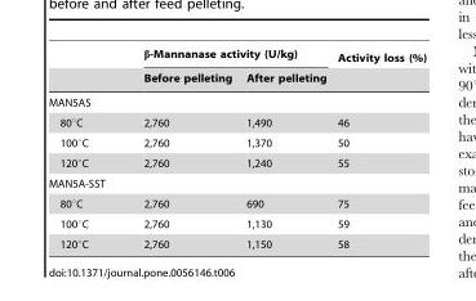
<table><thead><tr><td rowspan="2"></td><td colspan="2">β-Mannanase activity (U/kg)</td><td rowspan="2">Activity loss (%)</td></tr><tr><td>Before pelleting</td><td>After pelleting</td></tr></thead><tbody><tr><td colspan="4">MAN5AS</td></tr><tr><td>80°C</td><td>2,760</td><td>1,490</td><td>46</td></tr><tr><td>100°C</td><td>2,760</td><td>1,370</td><td>50</td></tr><tr><td>120°C</td><td>2,760</td><td>1,240</td><td>55</td></tr><tr><td colspan="4">MAN5A-SST</td></tr><tr><td>80°C</td><td>2,760</td><td>690</td><td>75</td></tr><tr><td>100°C</td><td>2,760</td><td>1,130</td><td>59</td></tr><tr><td>120°C</td><td>2,760</td><td>1,150</td><td>58</td></tr></tbody></table>